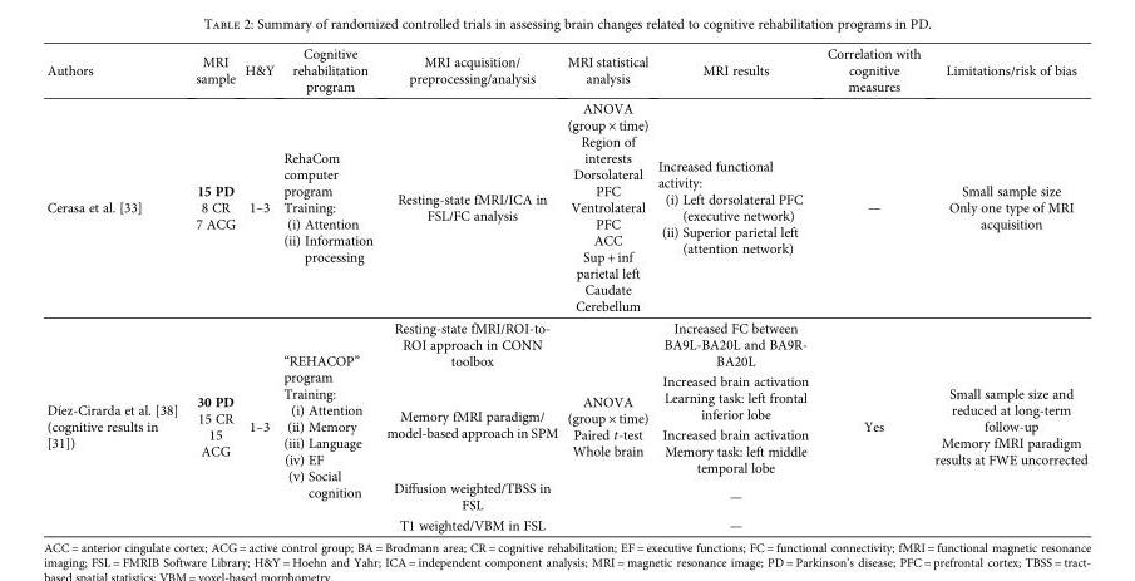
<table><thead><tr><td>Authors</td><td>MRI sample</td><td>H&amp;Y</td><td>Cognitive rehabilitation program</td><td>MRI acquisition/ preprocessing/analysis</td><td>MRI statistical analysis</td><td>MRI results</td><td>Correlation with cognitive measures</td><td>Limitations/risk of bias</td></tr></thead><tbody><tr><td>Cerasa et al. [33]</td><td>15 PD 8 CR 7 ACG</td><td>1–3</td><td>RehaCom computer program Training: (i) Attention (ii) Information processing</td><td>Resting-state fMRI/ICA in FSL/FC analysis</td><td>ANOVA (group × time) Region of interests Dorsolateral PFC Ventrolateral PFC ACC Sup + inf parietal left Caudate Cerebellum</td><td>Increased functional activity: (i) Left dorsolateral PFC (executive network) (ii) Superior parietal left (attention network)</td><td>—</td><td>Small sample size Only one type of MRI acquisition</td></tr><tr><td rowspan="5">Díez-Cirarda et al. [38] (cognitive results in [31])</td><td rowspan="5">30 PD 15 CR 15 ACG</td><td rowspan="5">1–3</td><td rowspan="5">“REHACOP” program Training: (i) Attention (ii) Memory (iii) Language (iv) EF (v) Social cognition</td><td>Resting-state fMRI/ROI-to- ROI approach in CONN toolbox</td><td rowspan="5">ANOVA (group × time) Paired t-test Whole brain</td><td>Increased FC between BA9L-BA20L and BA9R- BA20L</td><td rowspan="5">Yes</td><td rowspan="5">Small sample size and reduced at long-term follow-up Memory fMRI paradigm results at FWE uncorrected</td></tr><tr><td rowspan="2">Memory fMRI paradigm/ model-based approach in SPM</td><td>Increased brain activation Learning task: left frontal inferior lobe</td></tr><tr><td>Increased brain activation Memory task: left middle temporal lobe</td></tr><tr><td>Diffusion weighted/TBSS in FSL</td><td>—</td></tr><tr><td>T1 weighted/VBM in FSL</td><td>—</td></tr></tbody></table>